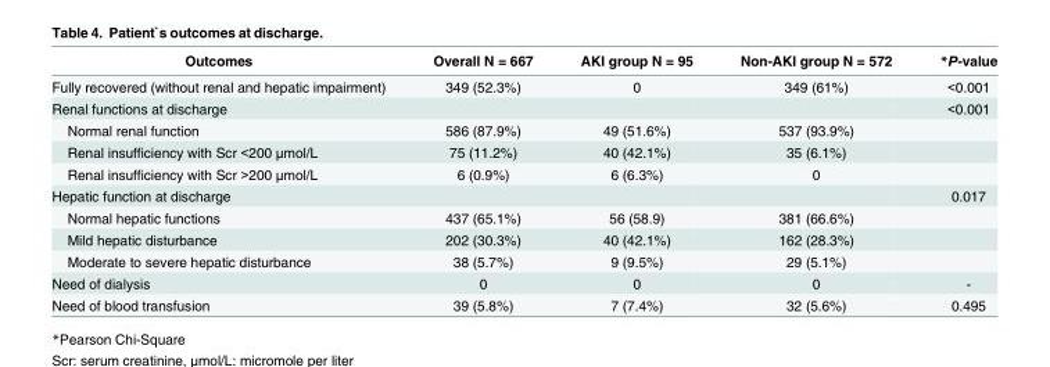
<table><thead><tr><td>Outcomes</td><td>Overall N = 667</td><td>AKI group N = 95</td><td>Non-AKI group N = 572</td><td>*P-value</td></tr></thead><tbody><tr><td>Fully recovered (without renal and hepatic impairment)</td><td>349 (52.3%)</td><td>0</td><td>349 (61%)</td><td>&lt;0.001</td></tr><tr><td>Renal functions at discharge</td><td></td><td></td><td></td><td>&lt;0.001</td></tr><tr><td>Normal renal function</td><td>586 (87.9%)</td><td>49 (51.6%)</td><td>537 (93.9%)</td><td></td></tr><tr><td>Renal insufficiency with Scr &lt;200 μmol/L</td><td>75 (11.2%)</td><td>40 (42.1%)</td><td>35 (6.1%)</td><td></td></tr><tr><td>Renal insufficiency with Scr &gt;200 μmol/L</td><td>6 (0.9%)</td><td>6 (6.3%)</td><td>0</td><td></td></tr><tr><td>Hepatic function at discharge</td><td></td><td></td><td></td><td>0.017</td></tr><tr><td>Normal hepatic functions</td><td>437 (65.1%)</td><td>56 (58.9)</td><td>381 (66.6%)</td><td></td></tr><tr><td>Mild hepatic disturbance</td><td>202 (30.3%)</td><td>40 (42.1%)</td><td>162 (28.3%)</td><td></td></tr><tr><td>Moderate to severe hepatic disturbance</td><td>38 (5.7%)</td><td>9 (9.5%)</td><td>29 (5.1%)</td><td></td></tr><tr><td>Need of dialysis</td><td>0</td><td>0</td><td>0</td><td>-</td></tr><tr><td>Need of blood transfusion</td><td>39 (5.8%)</td><td>7 (7.4%)</td><td>32 (5.6%)</td><td>0.495</td></tr></tbody></table>